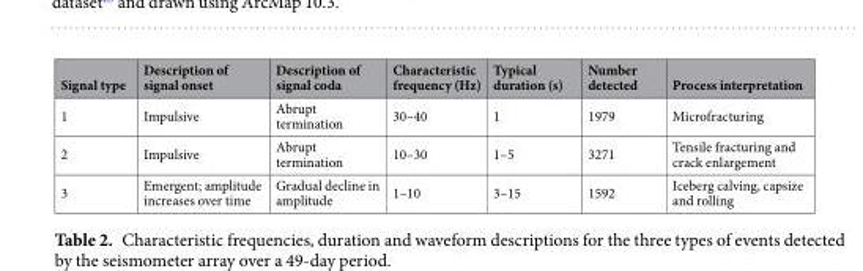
<table><thead><tr><td>Signal type</td><td>Description of signal onset</td><td>Description of signal coda</td><td>Characteristic frequency (Hz)</td><td>Typical duration (s)</td><td>Number detected</td><td>Process interpretation</td></tr></thead><tbody><tr><td>1</td><td>Impulsive</td><td>Abrupt termination</td><td>30–40</td><td>1</td><td>1979</td><td>Microfracturing</td></tr><tr><td>2</td><td>Impulsive</td><td>Abrupt termination</td><td>10–30</td><td>1–5</td><td>3271</td><td>Tensile fracturing and crack enlargement</td></tr><tr><td>3</td><td>Emergent; amplitude increases over time</td><td>Gradual decline in amplitude</td><td>1–10</td><td>3–15</td><td>1592</td><td>Iceberg calving, capsize and rolling</td></tr></tbody></table>